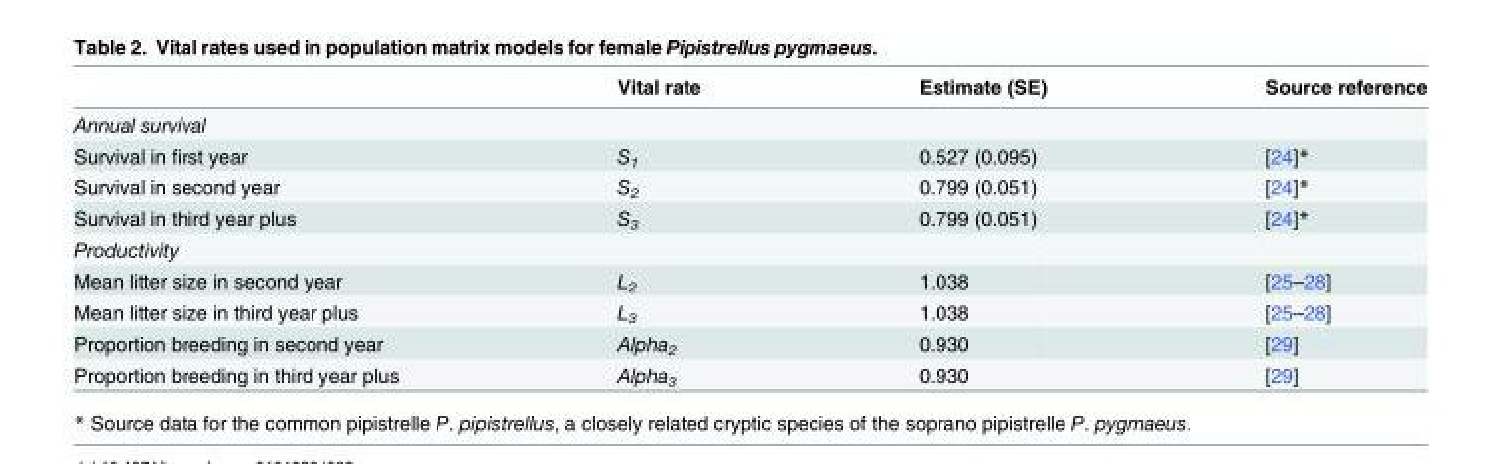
<table><thead><tr><td></td><td>Vital rate</td><td>Estimate (SE)</td><td>Source reference</td></tr></thead><tbody><tr><td colspan="4">Annual survival</td></tr><tr><td>Survival in first year</td><td>S<sub>1</sub></td><td>0.527 (0.095)</td><td>[24]*</td></tr><tr><td>Survival in second year</td><td>S<sub>2</sub></td><td>0.799 (0.051)</td><td>[24]*</td></tr><tr><td>Survival in third year plus</td><td>S<sub>3</sub></td><td>0.799 (0.051)</td><td>[24]*</td></tr><tr><td colspan="4">Productivity</td></tr><tr><td>Mean litter size in second year</td><td>L<sub>2</sub></td><td>1.038</td><td>[25–28]</td></tr><tr><td>Mean litter size in third year plus</td><td>L<sub>3</sub></td><td>1.038</td><td>[25–28]</td></tr><tr><td>Proportion breeding in second year</td><td>Alpha<sub>2</sub></td><td>0.930</td><td>[29]</td></tr><tr><td>Proportion breeding in third year plus</td><td>Alpha<sub>3</sub></td><td>0.930</td><td>[29]</td></tr></tbody></table>